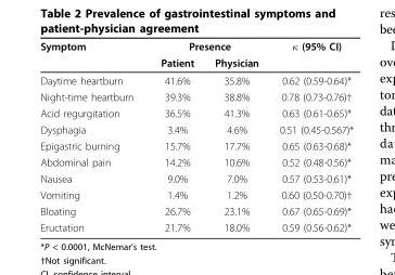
<table><thead><tr><td rowspan="2">Symptom</td><td colspan="2">Presence</td><td rowspan="2">κ (95% CI)</td></tr><tr><td>Patient</td><td>Physician</td></tr></thead><tbody><tr><td>Daytime heartburn</td><td>41.6%</td><td>35.8%</td><td>0.62 (0.59-0.64)*</td></tr><tr><td>Night-time heartburn</td><td>39.3%</td><td>38.8%</td><td>0.78 (0.73-0.76)†</td></tr><tr><td>Acid regurgitation</td><td>36.5%</td><td>41.3%</td><td>0.63 (0.61-0.65)*</td></tr><tr><td>Dysphagia</td><td>3.4%</td><td>4.6%</td><td>0.51 (0.45-0.567)*</td></tr><tr><td>Epigastric burning</td><td>15.7%</td><td>17.7%</td><td>0.65 (0.63-0.68)*</td></tr><tr><td>Abdominal pain</td><td>14.2%</td><td>10.6%</td><td>0.52 (0.48-0.56)*</td></tr><tr><td>Nausea</td><td>9.0%</td><td>7.0%</td><td>0.57 (0.53-0.61)*</td></tr><tr><td>Vomiting</td><td>1.4%</td><td>1.2%</td><td>0.60 (0.50-0.70)†</td></tr><tr><td>Bloating</td><td>26.7%</td><td>23.1%</td><td>0.67 (0.65-0.69)*</td></tr><tr><td>Eructation</td><td>21.7%</td><td>18.0%</td><td>0.59 (0.56-0.62)*</td></tr></tbody></table>